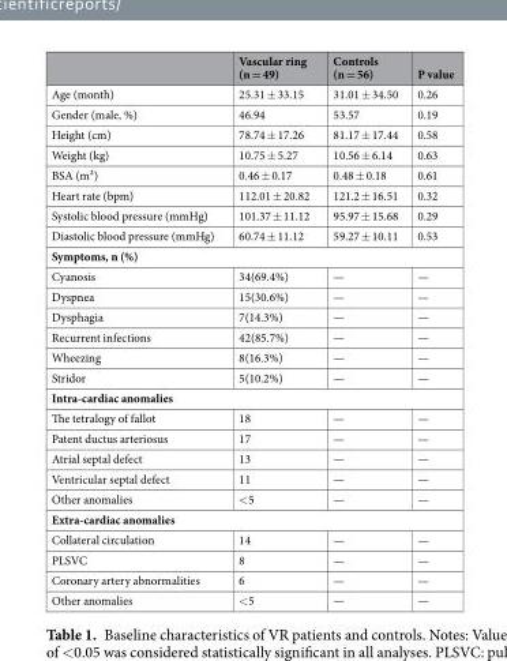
<table><thead><tr><td></td><td>Vascular ring (n = 49)</td><td>Controls (n = 56)</td><td>P value</td></tr></thead><tbody><tr><td>Age (month)</td><td>25.31 ± 33.15</td><td>31.01 ± 34.50</td><td>0.26</td></tr><tr><td>Gender (male, %)</td><td>46.94</td><td>53.57</td><td>0.19</td></tr><tr><td>Height (cm)</td><td>78.74 ± 17.26</td><td>81.17 ± 17.44</td><td>0.58</td></tr><tr><td>Weight (kg)</td><td>10.75 ± 5.27</td><td>10.56 ± 6.14</td><td>0.63</td></tr><tr><td>BSA (m²)</td><td>0.46 ± 0.17</td><td>0.48 ± 0.18</td><td>0.61</td></tr><tr><td>Heart rate (bpm)</td><td>112.01 ± 20.82</td><td>121.2 ± 16.51</td><td>0.32</td></tr><tr><td>Systolic blood pressure (mmHg)</td><td>101.37 ± 11.12</td><td>95.97 ± 15.68</td><td>0.29</td></tr><tr><td>Diastolic blood pressure (mmHg)</td><td>60.74 ± 11.12</td><td>59.27 ± 10.11</td><td>0.53</td></tr><tr><td colspan="4">Symptoms, n (%)</td></tr><tr><td>Cyanosis</td><td>34(69.4%)</td><td>—</td><td>—</td></tr><tr><td>Dyspnea</td><td>15(30.6%)</td><td>—</td><td>—</td></tr><tr><td>Dysphagia</td><td>7(14.3%)</td><td>—</td><td>—</td></tr><tr><td>Recurrent infections</td><td>42(85.7%)</td><td>—</td><td>—</td></tr><tr><td>Wheezing</td><td>8(16.3%)</td><td>—</td><td>—</td></tr><tr><td>Stridor</td><td>5(10.2%)</td><td>—</td><td>—</td></tr><tr><td colspan="4">Intra-cardiac anomalies</td></tr><tr><td>The tetralogy of fallot</td><td>18</td><td>—</td><td>—</td></tr><tr><td>Patent ductus arteriosus</td><td>17</td><td>—</td><td>—</td></tr><tr><td>Atrial septal defect</td><td>13</td><td>—</td><td>—</td></tr><tr><td>Ventricular septal defect</td><td>11</td><td>—</td><td>—</td></tr><tr><td>Other anomalies</td><td>&lt;5</td><td>—</td><td>—</td></tr><tr><td colspan="4">Extra-cardiac anomalies</td></tr><tr><td>Collateral circulation</td><td>14</td><td>—</td><td>—</td></tr><tr><td>PLSVC</td><td>8</td><td>—</td><td>—</td></tr><tr><td>Coronary artery abnormalities</td><td>6</td><td>—</td><td>—</td></tr><tr><td>Other anomalies</td><td>&lt;5</td><td>—</td><td>—</td></tr></tbody></table>